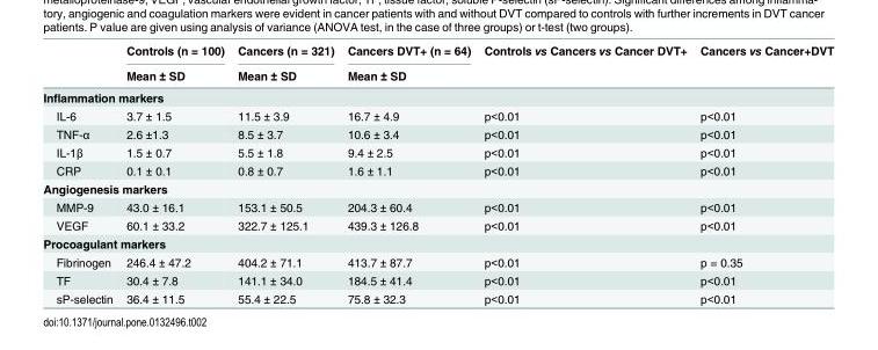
<table><thead><tr><td rowspan="2"></td><td rowspan="2">Controls (n = 100) Mean ± SD</td><td rowspan="2">Cancers (n = 321) Mean ± SD</td><td rowspan="2">Cancers DVT+ (n = 64) Mean ± SD</td><td rowspan="2">Controls vs Cancers vs Cancer DVT+</td><td rowspan="2">Cancers vs Cancer+DVT</td></tr><tr></tr></thead><tbody><tr><td colspan="6">Inflammation markers</td></tr><tr><td>IL-6</td><td>3.7 ± 1.5</td><td>11.5 ± 3.9</td><td>16.7 ± 4.9</td><td>p&lt;0.01</td><td>p&lt;0.01</td></tr><tr><td>TNF-α</td><td>2.6 ±1.3</td><td>8.5 ± 3.7</td><td>10.6 ± 3.4</td><td>p&lt;0.01</td><td>p&lt;0.01</td></tr><tr><td>IL-1β</td><td>1.5 ± 0.7</td><td>5.5 ± 1.8</td><td>9.4 ± 2.5</td><td>p&lt;0.01</td><td>p&lt;0.01</td></tr><tr><td>CRP</td><td>0.1 ± 0.1</td><td>0.8 ± 0.7</td><td>1.6 ± 1.1</td><td>p&lt;0.01</td><td>p&lt;0.01</td></tr><tr><td colspan="6">Angiogenesis markers</td></tr><tr><td>MMP-9</td><td>43.0 ± 16.1</td><td>153.1 ± 50.5</td><td>204.3 ± 60.4</td><td>p&lt;0.01</td><td>p&lt;0.01</td></tr><tr><td>VEGF</td><td>60.1 ± 33.2</td><td>322.7 ± 125.1</td><td>439.3 ± 126.8</td><td>p&lt;0.01</td><td>p&lt;0.01</td></tr><tr><td colspan="6">Procoagulant markers</td></tr><tr><td>Fibrinogen</td><td>246.4 ± 47.2</td><td>404.2 ± 71.1</td><td>413.7 ± 87.7</td><td>p&lt;0.01</td><td>p = 0.35</td></tr><tr><td>TF</td><td>30.4 ± 7.8</td><td>141.1 ± 34.0</td><td>184.5 ± 41.4</td><td>p&lt;0.01</td><td>p&lt;0.01</td></tr><tr><td>sP-selectin</td><td>36.4 ± 11.5</td><td>55.4 ± 22.5</td><td>75.8 ± 32.3</td><td>p&lt;0.01</td><td>p&lt;0.01</td></tr></tbody></table>